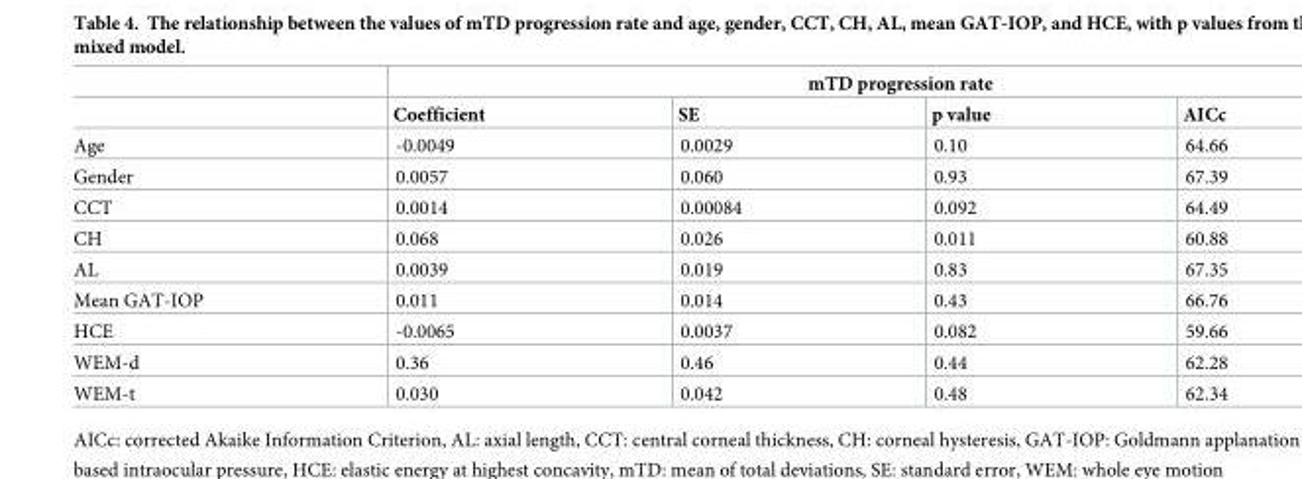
<table><thead><tr><td rowspan="2"></td><td colspan="4">mTD progression rate</td></tr><tr><td>Coefficient</td><td>SE</td><td>p value</td><td>AICc</td></tr></thead><tbody><tr><td>Age</td><td>-0.0049</td><td>0.0029</td><td>0.10</td><td>64.66</td></tr><tr><td>Gender</td><td>0.0057</td><td>0.060</td><td>0.93</td><td>67.39</td></tr><tr><td>CCT</td><td>0.0014</td><td>0.00084</td><td>0.092</td><td>64.49</td></tr><tr><td>CH</td><td>0.068</td><td>0.026</td><td>0.011</td><td>60.88</td></tr><tr><td>AL</td><td>0.0039</td><td>0.019</td><td>0.83</td><td>67.35</td></tr><tr><td>Mean GAT-IOP</td><td>0.011</td><td>0.014</td><td>0.43</td><td>66.76</td></tr><tr><td>HCE</td><td>-0.0065</td><td>0.0037</td><td>0.082</td><td>59.66</td></tr><tr><td>WEM-d</td><td>0.36</td><td>0.46</td><td>0.44</td><td>62.28</td></tr><tr><td>WEM-t</td><td>0.030</td><td>0.042</td><td>0.48</td><td>62.34</td></tr></tbody></table>